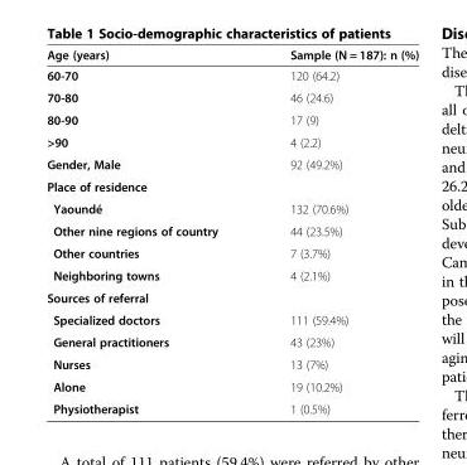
<table><thead><tr><td>Age (years)</td><td>Sample (N = 187): n (%)</td></tr></thead><tbody><tr><td>60-70</td><td>120 (64.2)</td></tr><tr><td>70-80</td><td>46 (24.6)</td></tr><tr><td>80-90</td><td>17 (9)</td></tr><tr><td>&gt;90</td><td>4 (2.2)</td></tr><tr><td>Gender, Male</td><td>92 (49.2%)</td></tr><tr><td colspan="2">Place of residence</td></tr><tr><td>Yaoundé</td><td>132 (70.6%)</td></tr><tr><td>Other nine regions of country</td><td>44 (23.5%)</td></tr><tr><td>Other countries</td><td>7 (3.7%)</td></tr><tr><td>Neighboring towns</td><td>4 (2.1%)</td></tr><tr><td colspan="2">Sources of referral</td></tr><tr><td>Specialized doctors</td><td>111 (59.4%)</td></tr><tr><td>General practitioners</td><td>43 (23%)</td></tr><tr><td>Nurses</td><td>13 (7%)</td></tr><tr><td>Alone</td><td>19 (10.2%)</td></tr><tr><td>Physiotherapist</td><td>1 (0.5%)</td></tr></tbody></table>